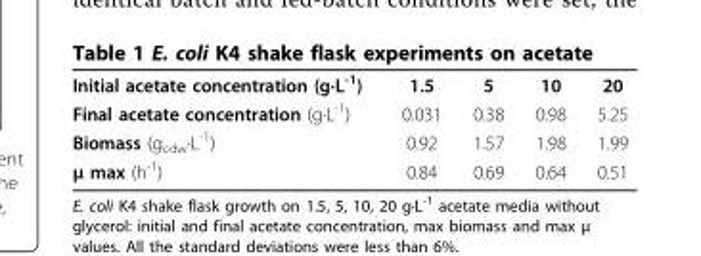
<table><tbody><tr><td>Initial acetate concentration (g·L<sup>-1</sup>)</td><td>1.5</td><td>5</td><td>10</td><td>20</td></tr><tr><td>Final acetate concentration (g·L<sup>-1</sup>)</td><td>0.031</td><td>0.38</td><td>0.98</td><td>5.25</td></tr><tr><td>Biomass (g<sub>cdw</sub>·L<sup>-1</sup>)</td><td>0.92</td><td>1.57</td><td>1.98</td><td>1.99</td></tr><tr><td>μ max (h<sup>-1</sup>)</td><td>0.84</td><td>0.69</td><td>0.64</td><td>0.51</td></tr></tbody></table>